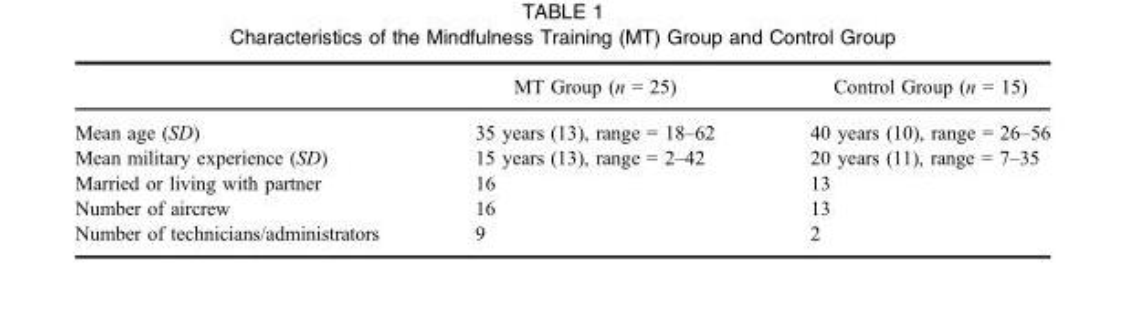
<table><thead><tr><td></td><td>MT Group (n = 25)</td><td>Control Group (n = 15)</td></tr></thead><tbody><tr><td>Mean age (SD)</td><td>35 years (13), range = 18–62</td><td>40 years (10), range = 26–56</td></tr><tr><td>Mean military experience (SD)</td><td>15 years (13), range = 2–42</td><td>20 years (11), range = 7–35</td></tr><tr><td>Married or living with partner</td><td>16</td><td>13</td></tr><tr><td>Number of aircrew</td><td>16</td><td>13</td></tr><tr><td>Number of technicians/administrators</td><td>9</td><td>2</td></tr></tbody></table>